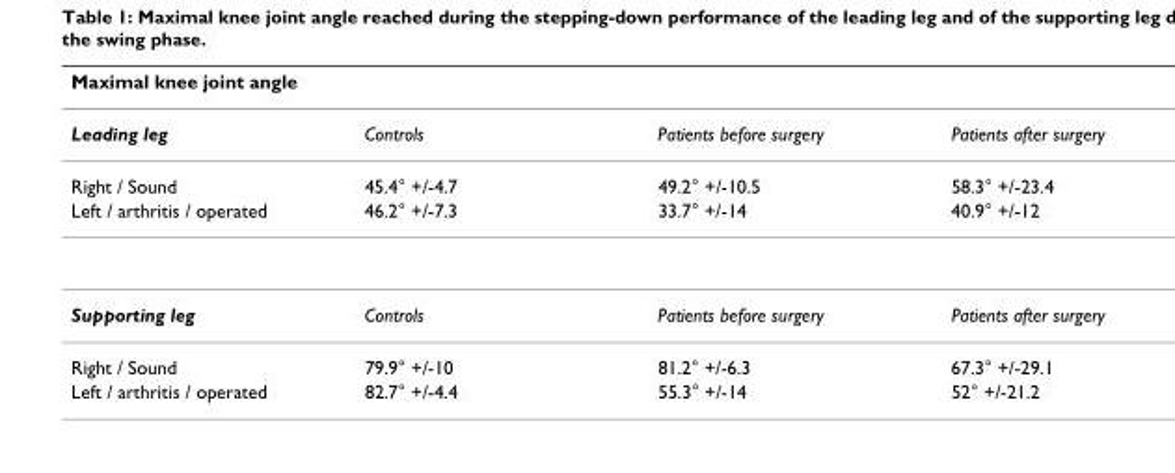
<table><thead><tr><td colspan="4">Maximal knee joint angle</td></tr><tr><td>Leading leg</td><td>Controls</td><td>Patients before surgery</td><td>Patients after surgery</td></tr></thead><tbody><tr><td>Right / Sound</td><td>45.4° +/-4.7</td><td>49.2° +/-10.5</td><td>58.3° +/-23.4</td></tr><tr><td>Left / arthritis / operated</td><td>46.2° +/-7.3</td><td>33.7° +/-14</td><td>40.9° +/-12</td></tr><tr><td>Supporting leg</td><td>Controls</td><td>Patients before surgery</td><td>Patients after surgery</td></tr><tr><td>Right / Sound</td><td>79.9° +/-10</td><td>81.2° +/-6.3</td><td>67.3° +/-29.1</td></tr><tr><td>Left / arthritis / operated</td><td>82.7° +/-4.4</td><td>55.3° +/-14</td><td>52° +/-21.2</td></tr></tbody></table>